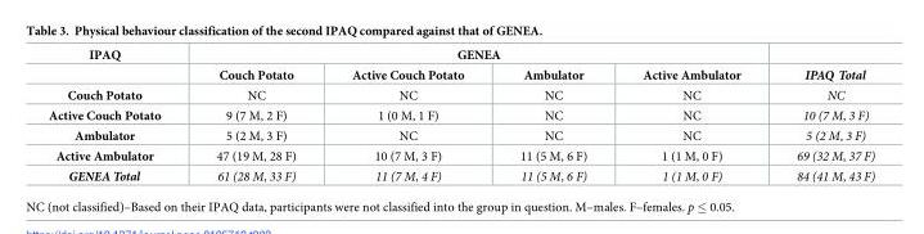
<table><thead><tr><td rowspan="2">IPAQ</td><td colspan="4">GENEA</td><td rowspan="2">IPAQ Total</td></tr><tr><td>Couch Potato</td><td>Active Couch Potato</td><td>Ambulator</td><td>Active Ambulator</td></tr></thead><tbody><tr><td>Couch Potato</td><td>NC</td><td>NC</td><td>NC</td><td>NC</td><td>NC</td></tr><tr><td>Active Couch Potato</td><td>9 (7 M, 2 F)</td><td>1 (0 M, 1 F)</td><td>NC</td><td>NC</td><td>10 (7 M, 3 F)</td></tr><tr><td>Ambulator</td><td>5 (2 M, 3 F)</td><td>NC</td><td>NC</td><td>NC</td><td>5 (2 M, 3 F)</td></tr><tr><td>Active Ambulator</td><td>47 (19 M, 28 F)</td><td>10 (7 M, 3 F)</td><td>11 (5 M, 6 F)</td><td>1 (1 M, 0 F)</td><td>69 (32 M, 37 F)</td></tr><tr><td>GENEA Total</td><td>61 (28 M, 33 F)</td><td>11 (7 M, 4 F)</td><td>11 (5 M, 6 F)</td><td>1 (1 M, 0 F)</td><td>84 (41 M, 43 F)</td></tr></tbody></table>